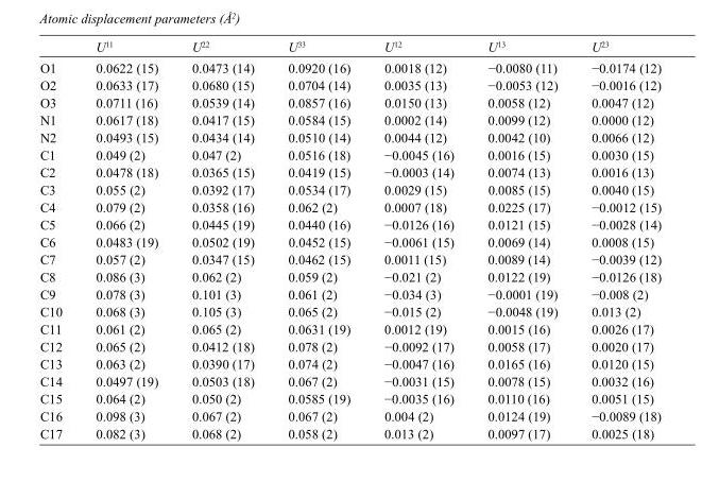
<table><thead><tr><td></td><td>U<sup>11</sup></td><td>U<sup>22</sup></td><td>U<sup>33</sup></td><td>U<sup>12</sup></td><td>U<sup>13</sup></td><td>U<sup>23</sup></td></tr></thead><tbody><tr><td>O1</td><td>0.0622 (15)</td><td>0.0473 (14)</td><td>0.0920 (16)</td><td>0.0018 (12)</td><td>−0.0080 (11)</td><td>−0.0174 (12)</td></tr><tr><td>O2</td><td>0.0633 (17)</td><td>0.0680 (15)</td><td>0.0704 (14)</td><td>0.0035 (13)</td><td>−0.0053 (12)</td><td>−0.0016 (12)</td></tr><tr><td>O3</td><td>0.0711 (16)</td><td>0.0539 (14)</td><td>0.0857 (16)</td><td>0.0150 (13)</td><td>0.0058 (12)</td><td>0.0047 (12)</td></tr><tr><td>N1</td><td>0.0617 (18)</td><td>0.0417 (15)</td><td>0.0584 (15)</td><td>0.0002 (14)</td><td>0.0099 (12)</td><td>0.0000 (12)</td></tr><tr><td>N2</td><td>0.0493 (15)</td><td>0.0434 (14)</td><td>0.0510 (14)</td><td>0.0044 (12)</td><td>0.0042 (10)</td><td>0.0066 (12)</td></tr><tr><td>C1</td><td>0.049 (2)</td><td>0.047 (2)</td><td>0.0516 (18)</td><td>−0.0045 (16)</td><td>0.0016 (15)</td><td>0.0030 (15)</td></tr><tr><td>C2</td><td>0.0478 (18)</td><td>0.0365 (15)</td><td>0.0419 (15)</td><td>−0.0003 (14)</td><td>0.0074 (13)</td><td>0.0016 (13)</td></tr><tr><td>C3</td><td>0.055 (2)</td><td>0.0392 (17)</td><td>0.0534 (17)</td><td>0.0029 (15)</td><td>0.0085 (15)</td><td>0.0040 (15)</td></tr><tr><td>C4</td><td>0.079 (2)</td><td>0.0358 (16)</td><td>0.062 (2)</td><td>0.0007 (18)</td><td>0.0225 (17)</td><td>−0.0012 (15)</td></tr><tr><td>C5</td><td>0.066 (2)</td><td>0.0445 (19)</td><td>0.0440 (16)</td><td>−0.0126 (16)</td><td>0.0121 (15)</td><td>−0.0028 (14)</td></tr><tr><td>C6</td><td>0.0483 (19)</td><td>0.0502 (19)</td><td>0.0452 (15)</td><td>−0.0061 (15)</td><td>0.0069 (14)</td><td>0.0008 (15)</td></tr><tr><td>C7</td><td>0.057 (2)</td><td>0.0347 (15)</td><td>0.0462 (15)</td><td>0.0011 (15)</td><td>0.0089 (14)</td><td>−0.0039 (12)</td></tr><tr><td>C8</td><td>0.086 (3)</td><td>0.062 (2)</td><td>0.059 (2)</td><td>−0.021 (2)</td><td>0.0122 (19)</td><td>−0.0126 (18)</td></tr><tr><td>C9</td><td>0.078 (3)</td><td>0.101 (3)</td><td>0.061 (2)</td><td>−0.034 (3)</td><td>−0.0001 (19)</td><td>−0.008 (2)</td></tr><tr><td>C10</td><td>0.068 (3)</td><td>0.105 (3)</td><td>0.065 (2)</td><td>−0.015 (2)</td><td>−0.0048 (19)</td><td>0.013 (2)</td></tr><tr><td>C11</td><td>0.061 (2)</td><td>0.065 (2)</td><td>0.0631 (19)</td><td>0.0012 (19)</td><td>0.0015 (16)</td><td>0.0026 (17)</td></tr><tr><td>C12</td><td>0.065 (2)</td><td>0.0412 (18)</td><td>0.078 (2)</td><td>−0.0092 (17)</td><td>0.0058 (17)</td><td>0.0020 (17)</td></tr><tr><td>C13</td><td>0.063 (2)</td><td>0.0390 (17)</td><td>0.074 (2)</td><td>−0.0047 (16)</td><td>0.0165 (16)</td><td>0.0120 (15)</td></tr><tr><td>C14</td><td>0.0497 (19)</td><td>0.0503 (18)</td><td>0.067 (2)</td><td>−0.0031 (15)</td><td>0.0078 (15)</td><td>0.0032 (16)</td></tr><tr><td>C15</td><td>0.064 (2)</td><td>0.050 (2)</td><td>0.0585 (19)</td><td>−0.0035 (16)</td><td>0.0110 (16)</td><td>0.0051 (15)</td></tr><tr><td>C16</td><td>0.098 (3)</td><td>0.067 (2)</td><td>0.067 (2)</td><td>0.004 (2)</td><td>0.0124 (19)</td><td>−0.0089 (18)</td></tr><tr><td>C17</td><td>0.082 (3)</td><td>0.068 (2)</td><td>0.058 (2)</td><td>0.013 (2)</td><td>0.0097 (17)</td><td>0.0025 (18)</td></tr></tbody></table>